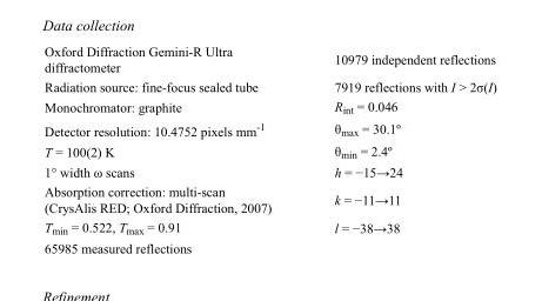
<table><tbody><tr><td>Oxford Diffraction Gemini-R Ultra diffractometer</td><td>10979 independent reflections</td></tr><tr><td>Radiation source: fine-focus sealed tube</td><td>7919 reflections with I &gt; 2σ(I)</td></tr><tr><td>Monochromator: graphite</td><td>R<sub>int</sub> = 0.046</td></tr><tr><td>Detector resolution: 10.4752 pixels mm<sup>-1</sup></td><td>θ<sub>max</sub> = 30.1º</td></tr><tr><td>T = 100(2) K</td><td>θ<sub>min</sub> = 2.4º</td></tr><tr><td>1° width ω scans</td><td>h = −15→24</td></tr><tr><td>Absorption correction: multi-scan (CrysAlis RED; Oxford Diffraction, 2007)</td><td>k = −11→11</td></tr><tr><td>T<sub>min</sub> = 0.522, T<sub>max</sub> = 0.91</td><td>l = −38→38</td></tr><tr><td>65985 measured reflections</td><td></td></tr></tbody></table>